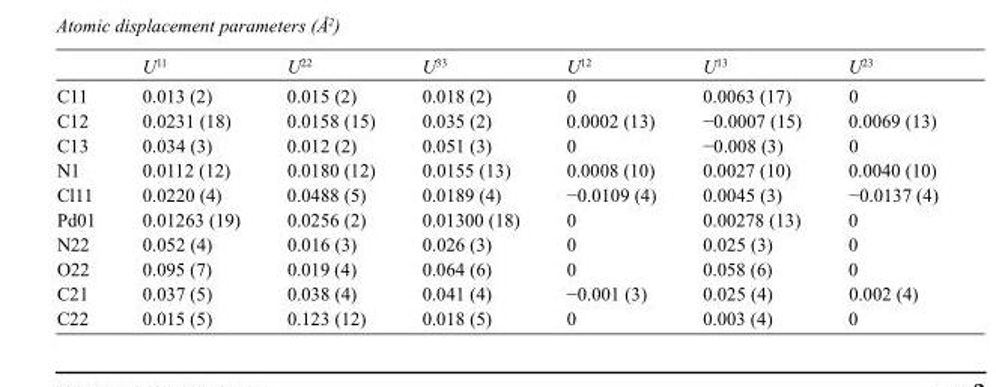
<table><thead><tr><td></td><td>U<sup>11</sup></td><td>U<sup>22</sup></td><td>U<sup>33</sup></td><td>U<sup>12</sup></td><td>U<sup>13</sup></td><td>U<sup>23</sup></td></tr></thead><tbody><tr><td>C11</td><td>0.013 (2)</td><td>0.015 (2)</td><td>0.018 (2)</td><td>0</td><td>0.0063 (17)</td><td>0</td></tr><tr><td>C12</td><td>0.0231 (18)</td><td>0.0158 (15)</td><td>0.035 (2)</td><td>0.0002 (13)</td><td>−0.0007 (15)</td><td>0.0069 (13)</td></tr><tr><td>C13</td><td>0.034 (3)</td><td>0.012 (2)</td><td>0.051 (3)</td><td>0</td><td>−0.008 (3)</td><td>0</td></tr><tr><td>N1</td><td>0.0112 (12)</td><td>0.0180 (12)</td><td>0.0155 (13)</td><td>0.0008 (10)</td><td>0.0027 (10)</td><td>0.0040 (10)</td></tr><tr><td>Cl11</td><td>0.0220 (4)</td><td>0.0488 (5)</td><td>0.0189 (4)</td><td>−0.0109 (4)</td><td>0.0045 (3)</td><td>−0.0137 (4)</td></tr><tr><td>Pd01</td><td>0.01263 (19)</td><td>0.0256 (2)</td><td>0.01300 (18)</td><td>0</td><td>0.00278 (13)</td><td>0</td></tr><tr><td>N22</td><td>0.052 (4)</td><td>0.016 (3)</td><td>0.026 (3)</td><td>0</td><td>0.025 (3)</td><td>0</td></tr><tr><td>O22</td><td>0.095 (7)</td><td>0.019 (4)</td><td>0.064 (6)</td><td>0</td><td>0.058 (6)</td><td>0</td></tr><tr><td>C21</td><td>0.037 (5)</td><td>0.038 (4)</td><td>0.041 (4)</td><td>−0.001 (3)</td><td>0.025 (4)</td><td>0.002 (4)</td></tr><tr><td>C22</td><td>0.015 (5)</td><td>0.123 (12)</td><td>0.018 (5)</td><td>0</td><td>0.003 (4)</td><td>0</td></tr></tbody></table>